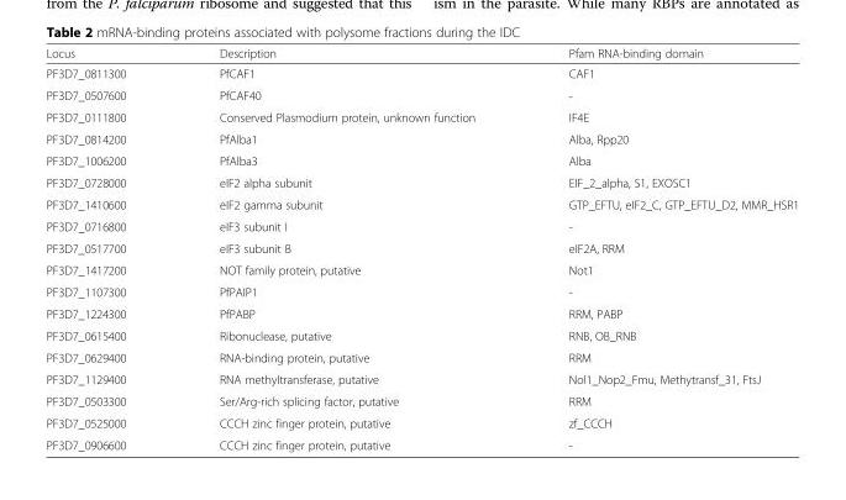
<table><thead><tr><td>Locus</td><td>Description</td><td>Pfam RNA-binding domain</td></tr></thead><tbody><tr><td>PF3D7_0811300</td><td>PfCAF1</td><td>CAF1</td></tr><tr><td>PF3D7_0507600</td><td>PfCAF40</td><td>-</td></tr><tr><td>PF3D7_0111800</td><td>Conserved Plasmodium protein, unknown function</td><td>IF4E</td></tr><tr><td>PF3D7_0814200</td><td>PfAlba1</td><td>Alba, Rpp20</td></tr><tr><td>PF3D7_1006200</td><td>PfAlba3</td><td>Alba</td></tr><tr><td>PF3D7_0728000</td><td>eIF2 alpha subunit</td><td>EIF_2_alpha, S1, EXOSC1</td></tr><tr><td>PF3D7_1410600</td><td>eIF2 gamma subunit</td><td>GTP_EFTU, eIF2_C, GTP_EFTU_D2, MMR_HSR1</td></tr><tr><td>PF3D7_0716800</td><td>eIF3 subunit I</td><td>-</td></tr><tr><td>PF3D7_0517700</td><td>eIF3 subunit B</td><td>eIF2A, RRM</td></tr><tr><td>PF3D7_1417200</td><td>NOT family protein, putative</td><td>Not1</td></tr><tr><td>PF3D7_1107300</td><td>PfPAIP1</td><td>-</td></tr><tr><td>PF3D7_1224300</td><td>PfPABP</td><td>RRM, PABP</td></tr><tr><td>PF3D7_0615400</td><td>Ribonuclease, putative</td><td>RNB, OB_RNB</td></tr><tr><td>PF3D7_0629400</td><td>RNA-binding protein, putative</td><td>RRM</td></tr><tr><td>PF3D7_1129400</td><td>RNA methyltransferase, putative</td><td>Nol1_Nop2_Fmu, Methytransf_31, FtsJ</td></tr><tr><td>PF3D7_0503300</td><td>Ser/Arg-rich splicing factor, putative</td><td>RRM</td></tr><tr><td>PF3D7_0525000</td><td>CCCH zinc finger protein, putative</td><td>zf_CCCH</td></tr><tr><td>PF3D7_0906600</td><td>CCCH zinc finger protein, putative</td><td>-</td></tr></tbody></table>